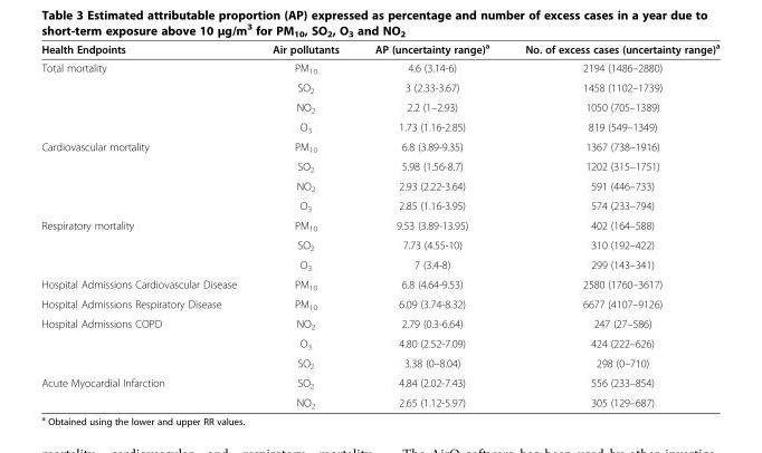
<table><thead><tr><td>Health Endpoints</td><td>Air pollutants</td><td>AP (uncertainty range)<sup>a</sup></td><td>No. of excess cases (uncertainty range)<sup>a</sup></td></tr></thead><tbody><tr><td rowspan="4">Total mortality</td><td>PM<sub>10</sub></td><td>4.6 (3.14-6)</td><td>2194 (1486–2880)</td></tr><tr><td>SO<sub>2</sub></td><td>3 (2.33-3.67)</td><td>1458 (1102–1739)</td></tr><tr><td>NO<sub>2</sub></td><td>2.2 (1–2.93)</td><td>1050 (705–1389)</td></tr><tr><td>O<sub>3</sub></td><td>1.73 (1.16-2.85)</td><td>819 (549–1349)</td></tr><tr><td rowspan="4">Cardiovascular mortality</td><td>PM<sub>10</sub></td><td>6.8 (3.89-9.35)</td><td>1367 (738–1916)</td></tr><tr><td>SO<sub>2</sub></td><td>5.98 (1.56-8.7)</td><td>1202 (315–1751)</td></tr><tr><td>NO<sub>2</sub></td><td>2.93 (2.22-3.64)</td><td>591 (446–733)</td></tr><tr><td>O<sub>3</sub></td><td>2.85 (1.16-3.95)</td><td>574 (233–794)</td></tr><tr><td rowspan="3">Respiratory mortality</td><td>PM<sub>10</sub></td><td>9.53 (3.89-13.95)</td><td>402 (164–588)</td></tr><tr><td>SO<sub>2</sub></td><td>7.73 (4.55-10)</td><td>310 (192–422)</td></tr><tr><td>O<sub>3</sub></td><td>7 (3.4-8)</td><td>299 (143–341)</td></tr><tr><td>Hospital Admissions Cardiovascular Disease</td><td>PM<sub>10</sub></td><td>6.8 (4.64-9.53)</td><td>2580 (1760–3617)</td></tr><tr><td>Hospital Admissions Respiratory Disease</td><td>PM<sub>10</sub></td><td>6.09 (3.74-8.32)</td><td>6677 (4107–9126)</td></tr><tr><td rowspan="3">Hospital Admissions COPD</td><td>NO<sub>2</sub></td><td>2.79 (0.3-6.64)</td><td>247 (27–586)</td></tr><tr><td>O<sub>3</sub></td><td>4.80 (2.52-7.09)</td><td>424 (222–626)</td></tr><tr><td>SO<sub>2</sub></td><td>3.38 (0–8.04)</td><td>298 (0–710)</td></tr><tr><td rowspan="2">Acute Myocardial Infarction</td><td>SO<sub>2</sub></td><td>4.84 (2.02-7.43)</td><td>556 (233–854)</td></tr><tr><td>NO<sub>2</sub></td><td>2.65 (1.12-5.97)</td><td>305 (129–687)</td></tr></tbody></table>